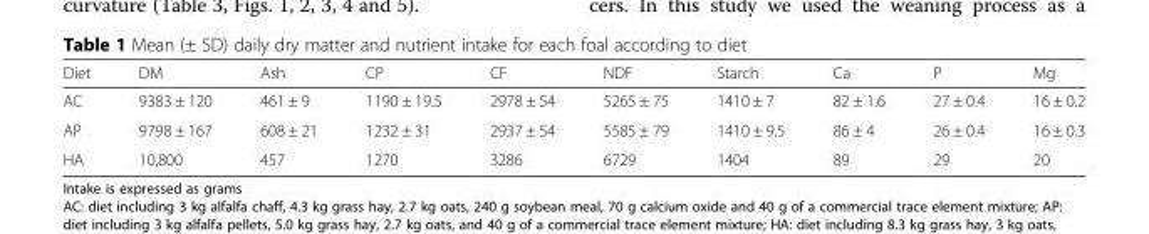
<table><thead><tr><td>Diet</td><td>DM</td><td>Ash</td><td>CP</td><td>CF</td><td>NDF</td><td>Starch</td><td>Ca</td><td>P</td><td>Mg</td></tr></thead><tbody><tr><td>AC</td><td>9383 ± 120</td><td>461 ± 9</td><td>1190 ± 19.5</td><td>2978 ± 54</td><td>5265 ± 75</td><td>1410 ± 7</td><td>82 ± 1.6</td><td>27 ± 0.4</td><td>16 ± 0.2</td></tr><tr><td>AP</td><td>9798 ± 167</td><td>608 ± 21</td><td>1232 ± 31</td><td>2937 ± 54</td><td>5585 ± 79</td><td>1410 ± 9.5</td><td>86 ± 4</td><td>26 ± 0.4</td><td>16 ± 0.3</td></tr><tr><td>HA</td><td>10,800</td><td>457</td><td>1270</td><td>3286</td><td>6729</td><td>1404</td><td>89</td><td>29</td><td>20</td></tr></tbody></table>